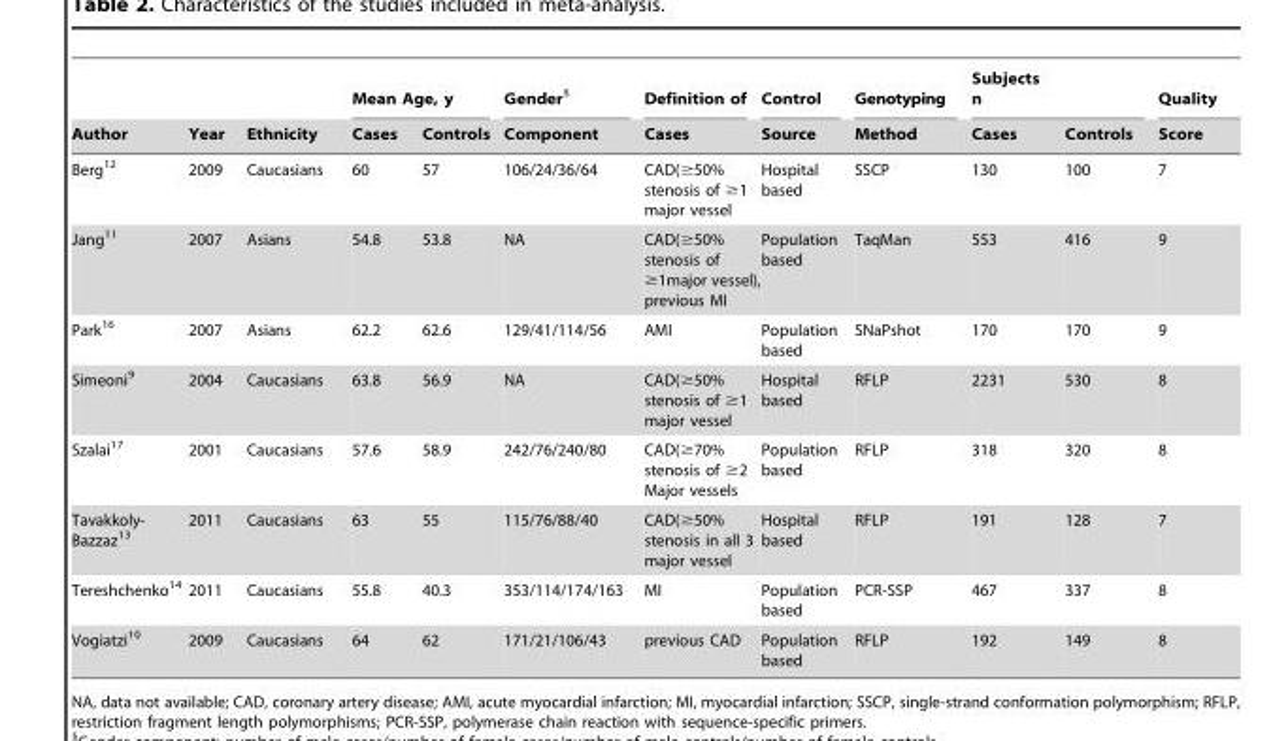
<table><thead><tr><td rowspan="2">Author</td><td rowspan="2">Year</td><td rowspan="2">Ethnicity</td><td colspan="2">Mean Age, y</td><td rowspan="2">Gender§ Component</td><td rowspan="2">Definition of Cases</td><td rowspan="2">Control Source</td><td rowspan="2">Genotyping Method</td><td colspan="2">Subjects n</td><td rowspan="2">Quality Score</td></tr><tr><td>Cases</td><td>Controls</td><td>Cases</td><td>Controls</td></tr></thead><tbody><tr><td>Berg<sup>12</sup></td><td>2009</td><td>Caucasians</td><td>60</td><td>57</td><td>106/24/36/64</td><td>CAD(≥50% stenosis of ≥1 major vessel</td><td>Hospital based</td><td>SSCP</td><td>130</td><td>100</td><td>7</td></tr><tr><td>Jang<sup>11</sup></td><td>2007</td><td>Asians</td><td>54.8</td><td>53.8</td><td>NA</td><td>CAD(≥50% stenosis of ≥1major vessel), previous MI</td><td>Population based</td><td>TaqMan</td><td>553</td><td>416</td><td>9</td></tr><tr><td>Park<sup>16</sup></td><td>2007</td><td>Asians</td><td>62.2</td><td>62.6</td><td>129/41/114/56</td><td>AMI</td><td>Population based</td><td>SNaPshot</td><td>170</td><td>170</td><td>9</td></tr><tr><td>Simeoni<sup>9</sup></td><td>2004</td><td>Caucasians</td><td>63.8</td><td>56.9</td><td>NA</td><td>CAD(≥50% stenosis of ≥1 major vessel</td><td>Hospital based</td><td>RFLP</td><td>2231</td><td>530</td><td>8</td></tr><tr><td>Szalai<sup>17</sup></td><td>2001</td><td>Caucasians</td><td>57.6</td><td>58.9</td><td>242/76/240/80</td><td>CAD(≥70% stenosis of ≥2 Major vessels</td><td>Population based</td><td>RFLP</td><td>318</td><td>320</td><td>8</td></tr><tr><td>Tavakkoly- Bazzaz<sup>13</sup></td><td>2011</td><td>Caucasians</td><td>63</td><td>55</td><td>115/76/88/40</td><td>CAD(≥50% stenosis in all 3 major vessel</td><td>Hospital based</td><td>RFLP</td><td>191</td><td>128</td><td>7</td></tr><tr><td>Tereshchenko<sup>14</sup></td><td>2011</td><td>Caucasians</td><td>55.8</td><td>40.3</td><td>353/114/174/163</td><td>MI</td><td>Population based</td><td>PCR-SSP</td><td>467</td><td>337</td><td>8</td></tr><tr><td>Vogiatzi<sup>10</sup></td><td>2009</td><td>Caucasians</td><td>64</td><td>62</td><td>171/21/106/43</td><td>previous CAD</td><td>Population based</td><td>RFLP</td><td>192</td><td>149</td><td>8</td></tr></tbody></table>